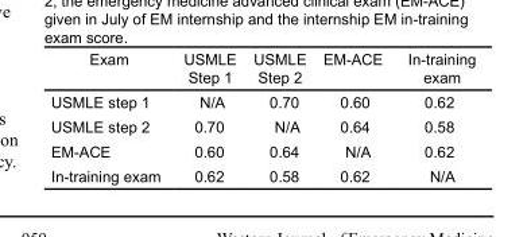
<table><thead><tr><td>Exam</td><td>USMLE Step 1</td><td>USMLE Step 2</td><td>EM-ACE</td><td>In-training exam</td></tr></thead><tbody><tr><td>USMLE step 1</td><td>N/A</td><td>0.70</td><td>0.60</td><td>0.62</td></tr><tr><td>USMLE step 2</td><td>0.70</td><td>N/A</td><td>0.64</td><td>0.58</td></tr><tr><td>EM-ACE</td><td>0.60</td><td>0.64</td><td>N/A</td><td>0.62</td></tr><tr><td>In-training exam</td><td>0.62</td><td>0.58</td><td>0.62</td><td>N/A</td></tr></tbody></table>